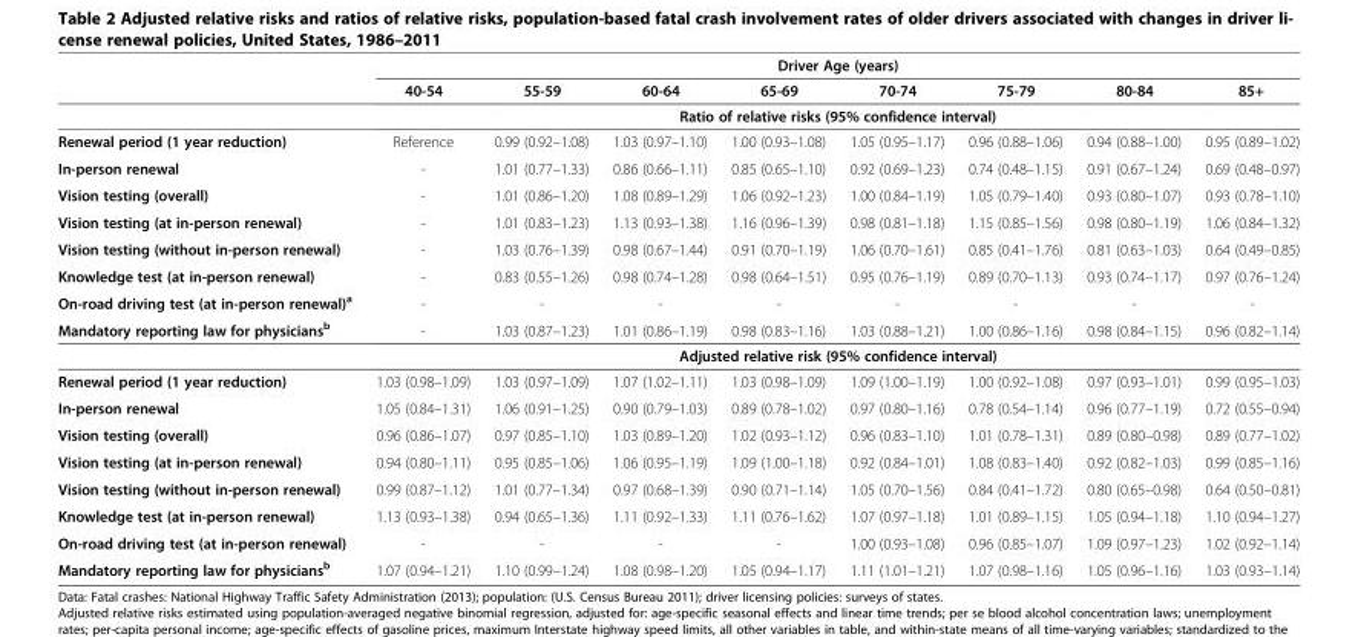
<table><thead><tr><td rowspan="2"></td><td colspan="8">Driver Age (years)</td></tr><tr><td>40-54</td><td>55-59</td><td>60-64</td><td>65-69</td><td>70-74</td><td>75-79</td><td>80-84</td><td>85+</td></tr></thead><tbody><tr><td></td><td colspan="8">Ratio of relative risks (95% confidence interval)</td></tr><tr><td>Renewal period (1 year reduction)</td><td>Reference</td><td>0.99 (0.92–1.08)</td><td>1.03 (0.97–1.10)</td><td>1.00 (0.93–1.08)</td><td>1.05 (0.95–1.17)</td><td>0.96 (0.88–1.06)</td><td>0.94 (0.88–1.00)</td><td>0.95 (0.89–1.02)</td></tr><tr><td>In-person renewal</td><td>-</td><td>1.01 (0.77–1.33)</td><td>0.86 (0.66–1.11)</td><td>0.85 (0.65–1.10)</td><td>0.92 (0.69–1.23)</td><td>0.74 (0.48–1.15)</td><td>0.91 (0.67–1.24)</td><td>0.69 (0.48–0.97)</td></tr><tr><td>Vision testing (overall)</td><td>-</td><td>1.01 (0.86–1.20)</td><td>1.08 (0.89–1.29)</td><td>1.06 (0.92–1.23)</td><td>1.00 (0.84–1.19)</td><td>1.05 (0.79–1.40)</td><td>0.93 (0.80–1.07)</td><td>0.93 (0.78–1.10)</td></tr><tr><td>Vision testing (at in-person renewal)</td><td>-</td><td>1.01 (0.83–1.23)</td><td>1.13 (0.93–1.38)</td><td>1.16 (0.96–1.39)</td><td>0.98 (0.81–1.18)</td><td>1.15 (0.85–1.56)</td><td>0.98 (0.80–1.19)</td><td>1.06 (0.84–1.32)</td></tr><tr><td>Vision testing (without in-person renewal)</td><td>-</td><td>1.03 (0.76–1.39)</td><td>0.98 (0.67–1.44)</td><td>0.91 (0.70–1.19)</td><td>1.06 (0.70–1.61)</td><td>0.85 (0.41–1.76)</td><td>0.81 (0.63–1.03)</td><td>0.64 (0.49–0.85)</td></tr><tr><td>Knowledge test (at in-person renewal)</td><td>-</td><td>0.83 (0.55–1.26)</td><td>0.98 (0.74–1.28)</td><td>0.98 (0.64–1.51)</td><td>0.95 (0.76–1.19)</td><td>0.89 (0.70–1.13)</td><td>0.93 (0.74–1.17)</td><td>0.97 (0.76–1.24)</td></tr><tr><td>On-road driving test (at in-person renewal)<sup>a</sup></td><td>-</td><td>-</td><td>-</td><td>-</td><td>-</td><td>-</td><td>-</td><td>-</td></tr><tr><td rowspan="2">Mandatory reporting law for physicians<sup>b</sup></td><td>-</td><td>1.03 (0.87–1.23)</td><td>1.01 (0.86–1.19)</td><td>0.98 (0.83–1.16)</td><td>1.03 (0.88–1.21)</td><td>1.00 (0.86–1.16)</td><td>0.98 (0.84–1.15)</td><td>0.96 (0.82–1.14)</td></tr><tr><td colspan="8">Adjusted relative risk (95% confidence interval)</td></tr><tr><td>Renewal period (1 year reduction)</td><td>1.03 (0.98–1.09)</td><td>1.03 (0.97–1.09)</td><td>1.07 (1.02–1.11)</td><td>1.03 (0.98–1.09)</td><td>1.09 (1.00–1.19)</td><td>1.00 (0.92–1.08)</td><td>0.97 (0.93–1.01)</td><td>0.99 (0.95–1.03)</td></tr><tr><td>In-person renewal</td><td>1.05 (0.84–1.31)</td><td>1.06 (0.91–1.25)</td><td>0.90 (0.79–1.03)</td><td>0.89 (0.78–1.02)</td><td>0.97 (0.80–1.16)</td><td>0.78 (0.54–1.14)</td><td>0.96 (0.77–1.19)</td><td>0.72 (0.55–0.94)</td></tr><tr><td>Vision testing (overall)</td><td>0.96 (0.86–1.07)</td><td>0.97 (0.85–1.10)</td><td>1.03 (0.89–1.20)</td><td>1.02 (0.93–1.12)</td><td>0.96 (0.83–1.10)</td><td>1.01 (0.78–1.31)</td><td>0.89 (0.80–0.98)</td><td>0.89 (0.77–1.02)</td></tr><tr><td>Vision testing (at in-person renewal)</td><td>0.94 (0.80–1.11)</td><td>0.95 (0.85–1.06)</td><td>1.06 (0.95–1.19)</td><td>1.09 (1.00–1.18)</td><td>0.92 (0.84–1.01)</td><td>1.08 (0.83–1.40)</td><td>0.92 (0.82–1.03)</td><td>0.99 (0.85–1.16)</td></tr><tr><td>Vision testing (without in-person renewal)</td><td>0.99 (0.87–1.12)</td><td>1.01 (0.77–1.34)</td><td>0.97 (0.68–1.39)</td><td>0.90 (0.71–1.14)</td><td>1.05 (0.70–1.56)</td><td>0.84 (0.41–1.72)</td><td>0.80 (0.65–0.98)</td><td>0.64 (0.50–0.81)</td></tr><tr><td>Knowledge test (at in-person renewal)</td><td>1.13 (0.93–1.38)</td><td>0.94 (0.65–1.36)</td><td>1.11 (0.92–1.33)</td><td>1.11 (0.76–1.62)</td><td>1.07 (0.97–1.18)</td><td>1.01 (0.89–1.15)</td><td>1.05 (0.94–1.18)</td><td>1.10 (0.94–1.27)</td></tr><tr><td>On-road driving test (at in-person renewal)</td><td>-</td><td>-</td><td>-</td><td>-</td><td>1.00 (0.93–1.08)</td><td>0.96 (0.85–1.07)</td><td>1.09 (0.97–1.23)</td><td>1.02 (0.92–1.14)</td></tr><tr><td>Mandatory reporting law for physicians<sup>b</sup></td><td>1.07 (0.94–1.21)</td><td>1.10 (0.99–1.24)</td><td>1.08 (0.98–1.20)</td><td>1.05 (0.94–1.17)</td><td>1.11 (1.01–1.21)</td><td>1.07 (0.98–1.16)</td><td>1.05 (0.96–1.16)</td><td>1.03 (0.93–1.14)</td></tr></tbody></table>